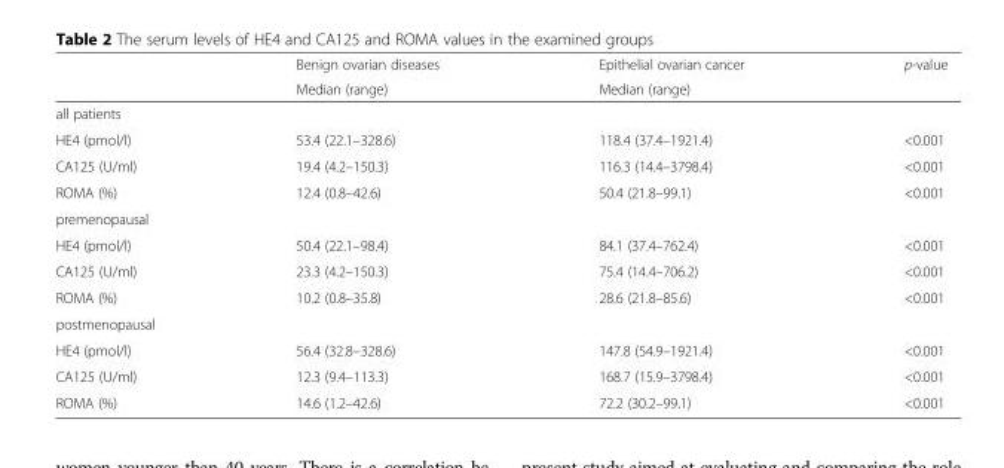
<table><thead><tr><td rowspan="2"></td><td rowspan="2">Benign ovarian diseases Median (range)</td><td rowspan="2">Epithelial ovarian cancer Median (range)</td><td rowspan="2">p-value</td></tr><tr></tr></thead><tbody><tr><td colspan="4">all patients</td></tr><tr><td>HE4 (pmol/l)</td><td>53.4 (22.1–328.6)</td><td>118.4 (37.4–1921.4)</td><td>&lt;0.001</td></tr><tr><td>CA125 (U/ml)</td><td>19.4 (4.2–150.3)</td><td>116.3 (14.4–3798.4)</td><td>&lt;0.001</td></tr><tr><td>ROMA (%)</td><td>12.4 (0.8–42.6)</td><td>50.4 (21.8–99.1)</td><td>&lt;0.001</td></tr><tr><td colspan="4">premenopausal</td></tr><tr><td>HE4 (pmol/l)</td><td>50.4 (22.1–98.4)</td><td>84.1 (37.4–762.4)</td><td>&lt;0.001</td></tr><tr><td>CA125 (U/ml)</td><td>23.3 (4.2–150.3)</td><td>75.4 (14.4–706.2)</td><td>&lt;0.001</td></tr><tr><td>ROMA (%)</td><td>10.2 (0.8–35.8)</td><td>28.6 (21.8–85.6)</td><td>&lt;0.001</td></tr><tr><td colspan="4">postmenopausal</td></tr><tr><td>HE4 (pmol/l)</td><td>56.4 (32.8–328.6)</td><td>147.8 (54.9–1921.4)</td><td>&lt;0.001</td></tr><tr><td>CA125 (U/ml)</td><td>12.3 (9.4–113.3)</td><td>168.7 (15.9–3798.4)</td><td>&lt;0.001</td></tr><tr><td>ROMA (%)</td><td>14.6 (1.2–42.6)</td><td>72.2 (30.2–99.1)</td><td>&lt;0.001</td></tr></tbody></table>